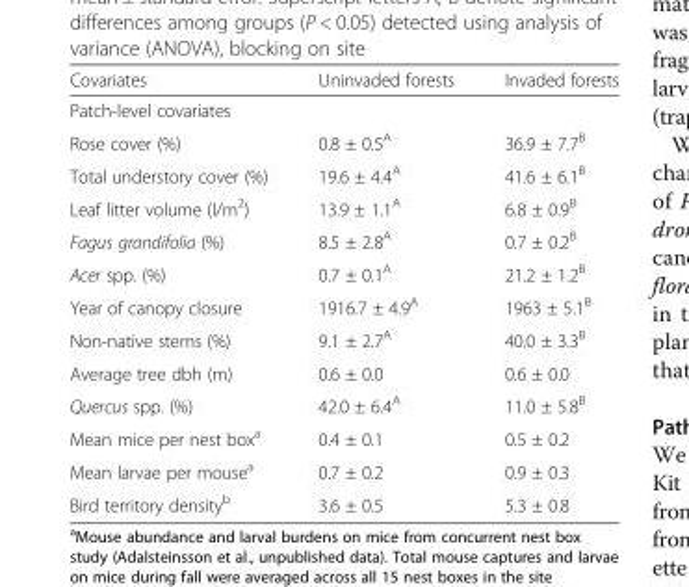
<table><thead><tr><td>Covariates</td><td>Uninvaded forests</td><td>Invaded forests</td></tr></thead><tbody><tr><td colspan="3">Patch-level covariates</td></tr><tr><td>Rose cover (%)</td><td>0.8 ± 0.5<sup>A</sup></td><td>36.9 ± 7.7<sup>B</sup></td></tr><tr><td>Total understory cover (%)</td><td>19.6 ± 4.4<sup>A</sup></td><td>41.6 ± 6.1<sup>B</sup></td></tr><tr><td>Leaf litter volume (l/m<sup>2</sup>)</td><td>13.9 ± 1.1<sup>A</sup></td><td>6.8 ± 0.9<sup>B</sup></td></tr><tr><td>Fagus grandifolia (%)</td><td>8.5 ± 2.8<sup>A</sup></td><td>0.7 ± 0.2<sup>B</sup></td></tr><tr><td>Acer spp. (%)</td><td>0.7 ± 0.1<sup>A</sup></td><td>21.2 ± 1.2<sup>B</sup></td></tr><tr><td>Year of canopy closure</td><td>1916.7 ± 4.9<sup>A</sup></td><td>1963 ± 5.1<sup>B</sup></td></tr><tr><td>Non-native stems (%)</td><td>9.1 ± 2.7<sup>A</sup></td><td>40.0 ± 3.3<sup>B</sup></td></tr><tr><td>Average tree dbh (m)</td><td>0.6 ± 0.0</td><td>0.6 ± 0.0</td></tr><tr><td>Quercus spp. (%)</td><td>42.0 ± 6.4<sup>A</sup></td><td>11.0 ± 5.8<sup>B</sup></td></tr><tr><td>Mean mice per nest box<sup>a</sup></td><td>0.4 ± 0.1</td><td>0.5 ± 0.2</td></tr><tr><td>Mean larvae per mouse<sup>a</sup></td><td>0.7 ± 0.2</td><td>0.9 ± 0.3</td></tr><tr><td>Bird territory density<sup>b</sup></td><td>3.6 ± 0.5</td><td>5.3 ± 0.8</td></tr></tbody></table>